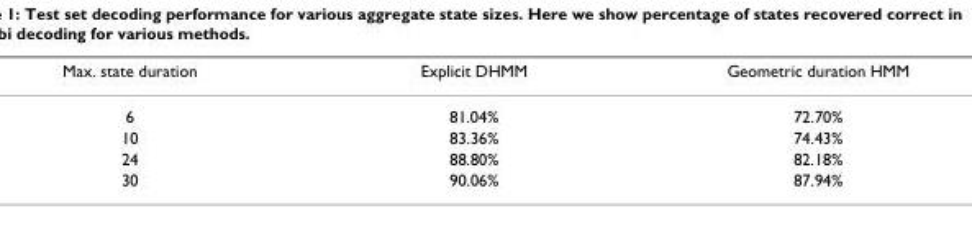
<table><thead><tr><td>Max. state duration</td><td>Explicit DHMM</td><td>Geometric duration HMM</td></tr></thead><tbody><tr><td>6</td><td>81.04%</td><td>72.70%</td></tr><tr><td>10</td><td>83.36%</td><td>74.43%</td></tr><tr><td>24</td><td>88.80%</td><td>82.18%</td></tr><tr><td>30</td><td>90.06%</td><td>87.94%</td></tr></tbody></table>